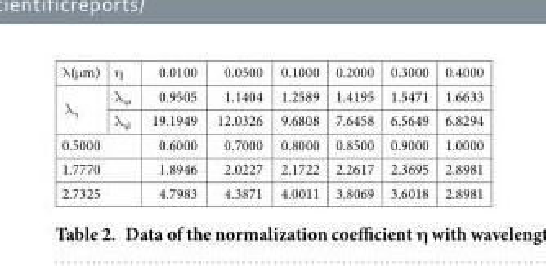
<table><tbody><tr><td>λ (μ m)</td><td>η</td><td>0.0100</td><td>0.0500</td><td>0.1000</td><td>0.2000</td><td>0.3000</td><td>0.4000</td></tr><tr><td rowspan="2">λ <sub>η</sub></td><td>λ <sub>ηs</sub></td><td>0.9505</td><td>1.1404</td><td>1.2589</td><td>1.4195</td><td>1.5471</td><td>1.6633</td></tr><tr><td>λ <sub>ηl</sub></td><td>19.1949</td><td>12.0326</td><td>9.6808</td><td>7.6458</td><td>6.5649</td><td>6.8294</td></tr><tr><td colspan="2">0.5000</td><td>0.6000</td><td>0.7000</td><td>0.8000</td><td>0.8500</td><td>0.9000</td><td>1.0000</td></tr><tr><td colspan="2">1.7770</td><td>1.8946</td><td>2.0227</td><td>2.1722</td><td>2.2617</td><td>2.3695</td><td>2.8981</td></tr><tr><td colspan="2">2.7325</td><td>4.7983</td><td>4.3871</td><td>4.0011</td><td>3.8069</td><td>3.6018</td><td>2.8981</td></tr></tbody></table>